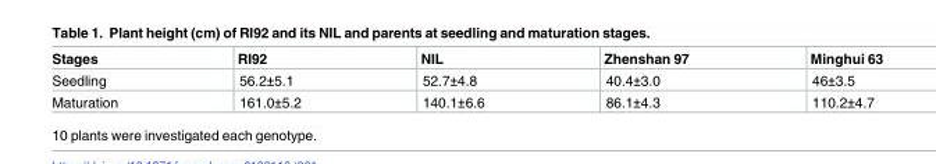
<table><thead><tr><td>Stages</td><td>RI92</td><td>NIL</td><td>Zhenshan 97</td><td>Minghui 63</td></tr></thead><tbody><tr><td>Seedling</td><td>56.2±5.1</td><td>52.7±4.8</td><td>40.4±3.0</td><td>46±3.5</td></tr><tr><td>Maturation</td><td>161.0±5.2</td><td>140.1±6.6</td><td>86.1±4.3</td><td>110.2±4.7</td></tr></tbody></table>